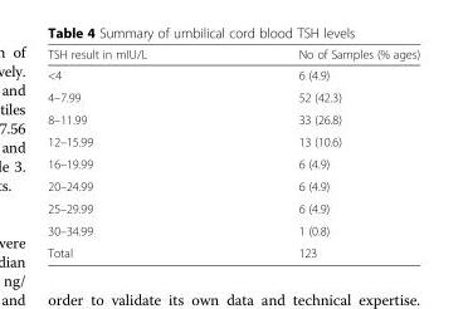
<table><thead><tr><td>TSH result in mIU/L</td><td>No of Samples (% ages)</td></tr></thead><tbody><tr><td>&lt;4</td><td>6 (4.9)</td></tr><tr><td>4–7.99</td><td>52 (42.3)</td></tr><tr><td>8–11.99</td><td>33 (26.8)</td></tr><tr><td>12–15.99</td><td>13 (10.6)</td></tr><tr><td>16–19.99</td><td>6 (4.9)</td></tr><tr><td>20–24.99</td><td>6 (4.9)</td></tr><tr><td>25–29.99</td><td>6 (4.9)</td></tr><tr><td>30–34.99</td><td>1 (0.8)</td></tr><tr><td>Total</td><td>123</td></tr></tbody></table>